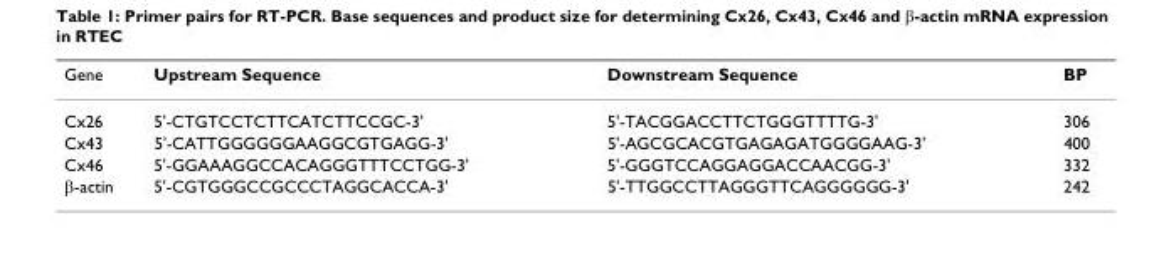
<table><thead><tr><td>Gene</td><td>Upstream Sequence</td><td>Downstream Sequence</td><td>BP</td></tr></thead><tbody><tr><td>Cx26</td><td>5&#x27;-CTGTCCTCTTCATCTTCCGC-3&#x27;</td><td>5&#x27;-TACGGACCTTCTGGGTTTTG-3&#x27;</td><td>306</td></tr><tr><td>Cx43</td><td>5&#x27;-CATTGGGGGGAAGGCGTGAGG-3&#x27;</td><td>5&#x27;-AGCGCACGTGAGAGATGGGGAAG-3&#x27;</td><td>400</td></tr><tr><td>Cx46</td><td>5&#x27;-GGAAAGGCCACAGGGTTTCCTGG-3&#x27;</td><td>5&#x27;-GGGTCCAGGAGGACCAACGG-3&#x27;</td><td>332</td></tr><tr><td>β-actin</td><td>5&#x27;-CGTGGGCCGCCCTAGGCACCA-3&#x27;</td><td>5&#x27;-TTGGCCTTAGGGTTCAGGGGGG-3&#x27;</td><td>242</td></tr></tbody></table>